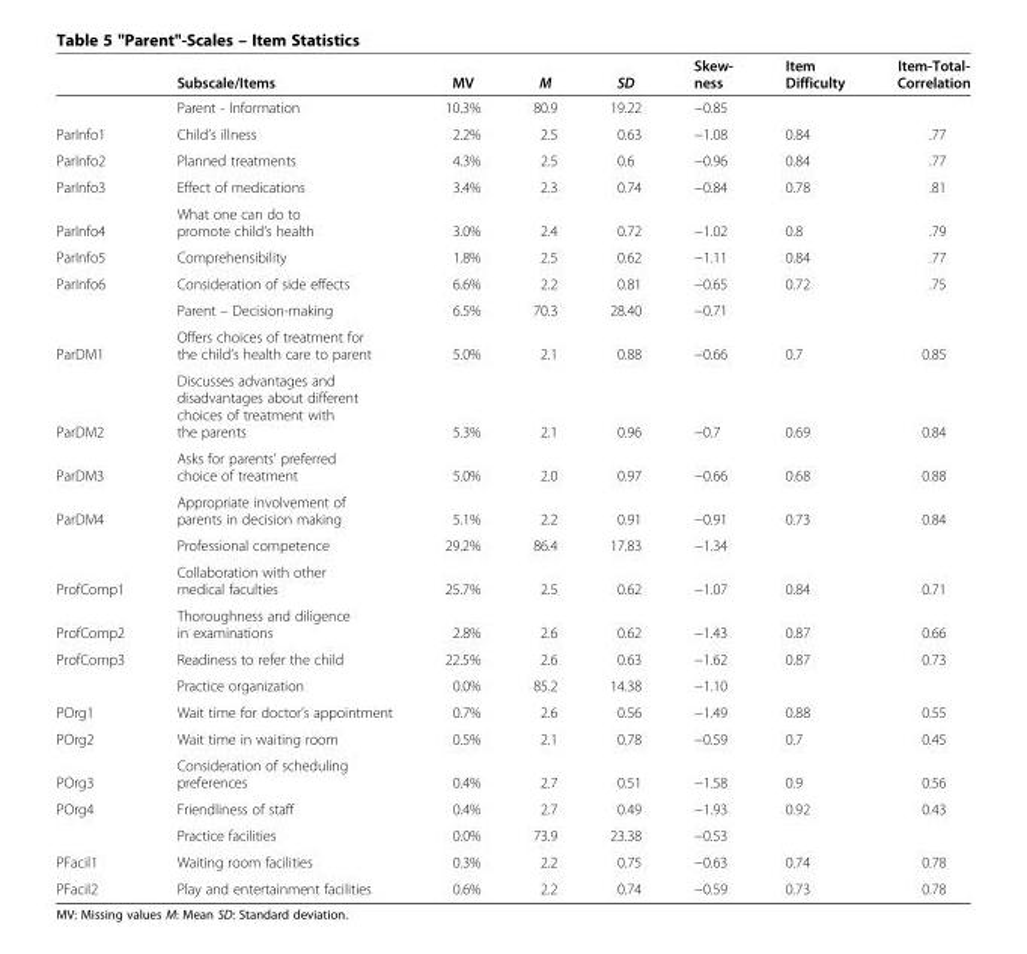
<table><thead><tr><td></td><td>Subscale/Items</td><td>MV</td><td>M</td><td>SD</td><td>Skew- ness</td><td>Item Difficulty</td><td>Item-Total- Correlation</td></tr></thead><tbody><tr><td></td><td>Parent - Information</td><td>10.3%</td><td>80.9</td><td>19.22</td><td>−0.85</td><td></td><td></td></tr><tr><td>ParInfo1</td><td>Child’s illness</td><td>2.2%</td><td>2.5</td><td>0.63</td><td>−1.08</td><td>0.84</td><td>.77</td></tr><tr><td>ParInfo2</td><td>Planned treatments</td><td>4.3%</td><td>2.5</td><td>0.6</td><td>−0.96</td><td>0.84</td><td>.77</td></tr><tr><td>ParInfo3</td><td>Effect of medications</td><td>3.4%</td><td>2.3</td><td>0.74</td><td>−0.84</td><td>0.78</td><td>.81</td></tr><tr><td>ParInfo4</td><td>What one can do to promote child‘s health</td><td>3.0%</td><td>2.4</td><td>0.72</td><td>−1.02</td><td>0.8</td><td>.79</td></tr><tr><td>ParInfo5</td><td>Comprehensibility</td><td>1.8%</td><td>2.5</td><td>0.62</td><td>−1.11</td><td>0.84</td><td>.77</td></tr><tr><td rowspan="2">ParInfo6</td><td>Consideration of side effects</td><td>6.6%</td><td>2.2</td><td>0.81</td><td>−0.65</td><td>0.72</td><td>.75</td></tr><tr><td>Parent – Decision-making</td><td>6.5%</td><td>70.3</td><td>28.40</td><td>−0.71</td><td></td><td></td></tr><tr><td>ParDM1</td><td>Offers choices of treatment for the child’s health care to parent</td><td>5.0%</td><td>2.1</td><td>0.88</td><td>−0.66</td><td>0.7</td><td>0.85</td></tr><tr><td>ParDM2</td><td>Discusses advantages and disadvantages about different choices of treatment with the parents</td><td>5.3%</td><td>2.1</td><td>0.96</td><td>−0.7</td><td>0.69</td><td>0.84</td></tr><tr><td>ParDM3</td><td>Asks for parents’ preferred choice of treatment</td><td>5.0%</td><td>2.0</td><td>0.97</td><td>−0.66</td><td>0.68</td><td>0.88</td></tr><tr><td rowspan="2">ParDM4</td><td>Appropriate involvement of parents in decision making</td><td>5.1%</td><td>2.2</td><td>0.91</td><td>−0.91</td><td>0.73</td><td>0.84</td></tr><tr><td>Professional competence</td><td>29.2%</td><td>86.4</td><td>17.83</td><td>−1.34</td><td></td><td></td></tr><tr><td>ProfComp1</td><td>Collaboration with other medical faculties</td><td>25.7%</td><td>2.5</td><td>0.62</td><td>−1.07</td><td>0.84</td><td>0.71</td></tr><tr><td>ProfComp2</td><td>Thoroughness and diligence in examinations</td><td>2.8%</td><td>2.6</td><td>0.62</td><td>−1.43</td><td>0.87</td><td>0.66</td></tr><tr><td rowspan="2">ProfComp3</td><td>Readiness to refer the child</td><td>22.5%</td><td>2.6</td><td>0.63</td><td>−1.62</td><td>0.87</td><td>0.73</td></tr><tr><td>Practice organization</td><td>0.0%</td><td>85.2</td><td>14.38</td><td>−1.10</td><td></td><td></td></tr><tr><td>POrg1</td><td>Wait time for doctor’s appointment</td><td>0.7%</td><td>2.6</td><td>0.56</td><td>−1.49</td><td>0.88</td><td>0.55</td></tr><tr><td>POrg2</td><td>Wait time in waiting room</td><td>0.5%</td><td>2.1</td><td>0.78</td><td>−0.59</td><td>0.7</td><td>0.45</td></tr><tr><td>POrg3</td><td>Consideration of scheduling preferences</td><td>0.4%</td><td>2.7</td><td>0.51</td><td>−1.58</td><td>0.9</td><td>0.56</td></tr><tr><td rowspan="2">POrg4</td><td>Friendliness of staff</td><td>0.4%</td><td>2.7</td><td>0.49</td><td>−1.93</td><td>0.92</td><td>0.43</td></tr><tr><td>Practice facilities</td><td>0.0%</td><td>73.9</td><td>23.38</td><td>−0.53</td><td></td><td></td></tr><tr><td>PFacil1</td><td>Waiting room facilities</td><td>0.3%</td><td>2.2</td><td>0.75</td><td>−0.63</td><td>0.74</td><td>0.78</td></tr><tr><td>PFacil2</td><td>Play and entertainment facilities</td><td>0.6%</td><td>2.2</td><td>0.74</td><td>−0.59</td><td>0.73</td><td>0.78</td></tr></tbody></table>